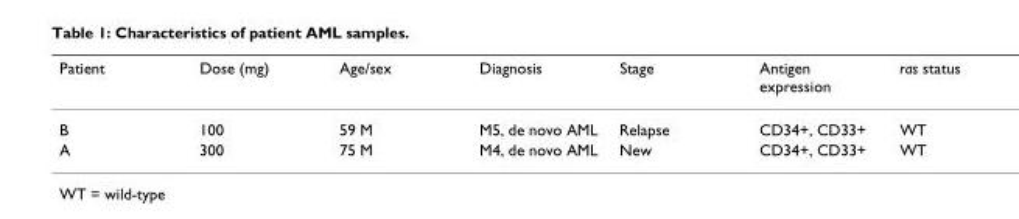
<table><thead><tr><td>Patient</td><td>Dose (mg)</td><td>Age/sex</td><td>Diagnosis</td><td>Stage</td><td>Antigen expression</td><td>ras status</td></tr></thead><tbody><tr><td>B</td><td>100</td><td>59 M</td><td>M5, de novo AML</td><td>Relapse</td><td>CD34+, CD33+</td><td>WT</td></tr><tr><td>A</td><td>300</td><td>75 M</td><td>M4, de novo AML</td><td>New</td><td>CD34+, CD33+</td><td>WT</td></tr></tbody></table>